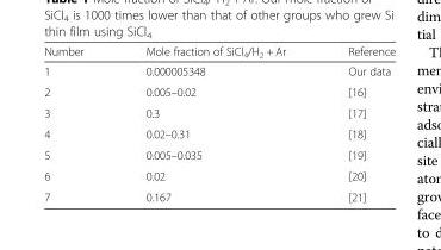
<table><thead><tr><td>Number</td><td>Mole fraction of SiCl<sub>4</sub>/H<sub>2</sub> + Ar</td><td>Reference</td></tr></thead><tbody><tr><td>1</td><td>0.000005348</td><td>Our data</td></tr><tr><td>2</td><td>0.005–0.02</td><td>[16]</td></tr><tr><td>3</td><td>0.3</td><td>[17]</td></tr><tr><td>4</td><td>0.02–0.31</td><td>[18]</td></tr><tr><td>5</td><td>0.005–0.035</td><td>[19]</td></tr><tr><td>6</td><td>0.02</td><td>[20]</td></tr><tr><td>7</td><td>0.167</td><td>[21]</td></tr></tbody></table>